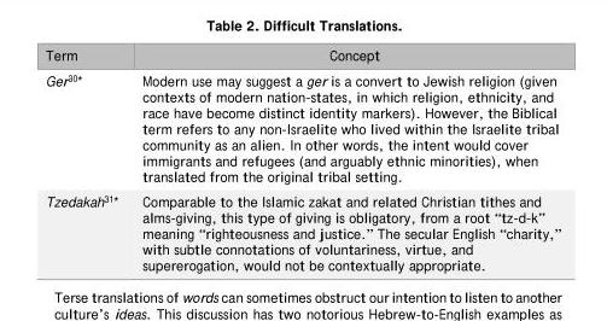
<table><thead><tr><td>Term</td><td>Concept</td></tr></thead><tbody><tr><td>Ger<sup>30</sup>*</td><td>Modern use may suggest a ger is a convert to Jewish religion (given contexts of modern nation-states, in which religion, ethnicity, and race have become distinct identity markers). However, the Biblical term refers to any non-Israelite who lived within the Israelite tribal community as an alien. In other words, the intent would cover immigrants and refugees (and arguably ethnic minorities), when translated from the original tribal setting.</td></tr><tr><td>Tzedakah<sup>31</sup>*</td><td>Comparable to the Islamic zakat and related Christian tithes and alms-giving, this type of giving is obligatory, from a root “tz-d-k” meaning “righteousness and justice.” The secular English “charity,” with subtle connotations of voluntariness, virtue, and supererogation, would not be contextually appropriate.</td></tr></tbody></table>